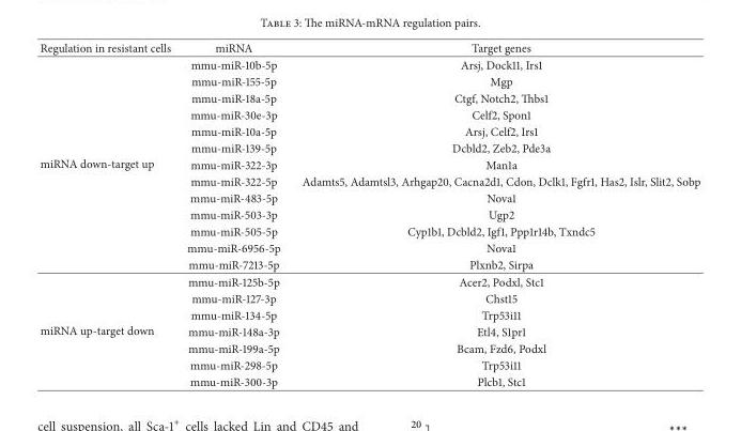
<table><thead><tr><td>Regulation in resistant cells</td><td>miRNA</td><td>Target genes</td></tr></thead><tbody><tr><td rowspan="13">miRNA down-target up</td><td>mmu-miR-10b-5p</td><td>Arsj, Dock11, Irs1</td></tr><tr><td>mmu-miR-155-5p</td><td>Mgp</td></tr><tr><td>mmu-miR-18a-5p</td><td>Ctgf, Notch2, Thbs1</td></tr><tr><td>mmu-miR-30e-3p</td><td>Celf2, Spon1</td></tr><tr><td>mmu-miR-10a-5p</td><td>Arsj, Celf2, Irs1</td></tr><tr><td>mmu-miR-139-5p</td><td>Dcbld2, Zeb2, Pde3a</td></tr><tr><td>mmu-miR-322-3p</td><td>Man1a</td></tr><tr><td>mmu-miR-322-5p</td><td>Adamts5, Adamtsl3, Arhgap20, Cacna2d1, Cdon, Dclk1, Fgfr1, Has2, Islr, Slit2, Sobp</td></tr><tr><td>mmu-miR-483-5p</td><td>Nova1</td></tr><tr><td>mmu-miR-503-3p</td><td>Ugp2</td></tr><tr><td>mmu-miR-505-5p</td><td>Cyp1b1, Dcbld2, Igf1, Ppp1r14b, Txndc5</td></tr><tr><td>mmu-miR-6956-5p</td><td>Nova1</td></tr><tr><td>mmu-miR-7213-5p</td><td>Plxnb2, Sirpa</td></tr><tr><td rowspan="7">miRNA up-target down</td><td>mmu-miR-125b-5p</td><td>Acer2, Podxl, Stc1</td></tr><tr><td>mmu-miR-127-3p</td><td>Chst15</td></tr><tr><td>mmu-miR-134-5p</td><td>Trp53i11</td></tr><tr><td>mmu-miR-148a-3p</td><td>Etl4, S1pr1</td></tr><tr><td>mmu-miR-199a-5p</td><td>Bcam, Fzd6, Podxl</td></tr><tr><td>mmu-miR-298-5p</td><td>Trp53i11</td></tr><tr><td>mmu-miR-300-3p</td><td>Plcb1, Stc1</td></tr></tbody></table>